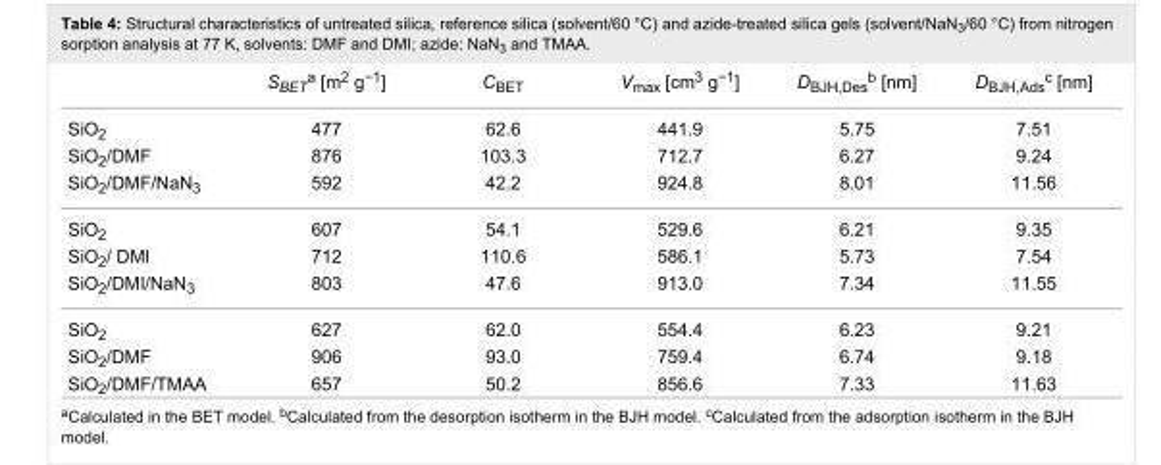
<table><thead><tr><td></td><td>S<sub>BET</sub><sup>a</sup> [m<sup>2</sup> g<sup>−1</sup>]</td><td>C<sub>BET</sub></td><td>V<sub>max</sub> [cm<sup>3</sup> g<sup>−1</sup>]</td><td>D<sub>BJH,Des</sub><sup>b</sup> [nm]</td><td>D<sub>BJH,Ads</sub><sup>c</sup> [nm]</td></tr></thead><tbody><tr><td>SiO<sub>2</sub></td><td>477</td><td>62.6</td><td>441.9</td><td>5.75</td><td>7.51</td></tr><tr><td>SiO<sub>2</sub>/DMF</td><td>876</td><td>103.3</td><td>712.7</td><td>6.27</td><td>9.24</td></tr><tr><td>SiO<sub>2</sub>/DMF/NaN<sub>3</sub></td><td>592</td><td>42.2</td><td>924.8</td><td>8.01</td><td>11.56</td></tr><tr><td>SiO<sub>2</sub></td><td>607</td><td>54.1</td><td>529.6</td><td>6.21</td><td>9.35</td></tr><tr><td>SiO<sub>2</sub>/ DMI</td><td>712</td><td>110.6</td><td>586.1</td><td>5.73</td><td>7.54</td></tr><tr><td>SiO<sub>2</sub>/DMI/NaN<sub>3</sub></td><td>803</td><td>47.6</td><td>913.0</td><td>7.34</td><td>11.55</td></tr><tr><td>SiO<sub>2</sub></td><td>627</td><td>62.0</td><td>554.4</td><td>6.23</td><td>9.21</td></tr><tr><td>SiO<sub>2</sub>/DMF</td><td>906</td><td>93.0</td><td>759.4</td><td>6.74</td><td>9.18</td></tr><tr><td>SiO<sub>2</sub>/DMF/TMAA</td><td>657</td><td>50.2</td><td>856.6</td><td>7.33</td><td>11.63</td></tr></tbody></table>